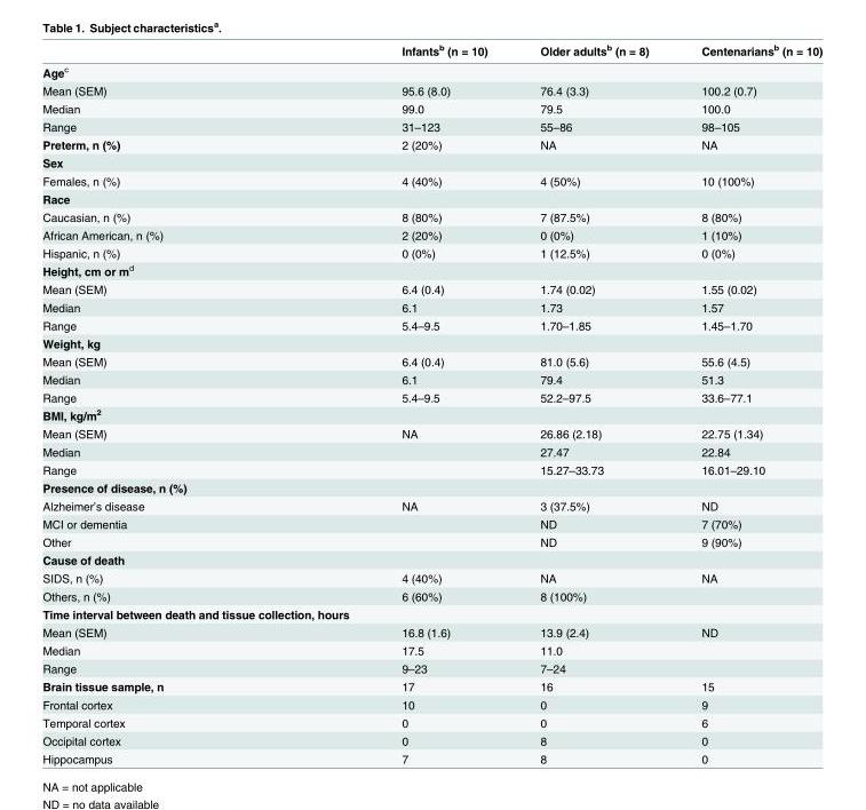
<table><thead><tr><td></td><td>Infants<sup>b</sup> (n = 10)</td><td>Older adults<sup>b</sup> (n = 8)</td><td>Centenarians<sup>b</sup> (n = 10)</td></tr></thead><tbody><tr><td colspan="4">Age<sup>c</sup></td></tr><tr><td>Mean (SEM)</td><td>95.6 (8.0)</td><td>76.4 (3.3)</td><td>100.2 (0.7)</td></tr><tr><td>Median</td><td>99.0</td><td>79.5</td><td>100.0</td></tr><tr><td>Range</td><td>31–123</td><td>55–86</td><td>98–105</td></tr><tr><td>Preterm, n (%)</td><td>2 (20%)</td><td>NA</td><td>NA</td></tr><tr><td colspan="4">Sex</td></tr><tr><td>Females, n (%)</td><td>4 (40%)</td><td>4 (50%)</td><td>10 (100%)</td></tr><tr><td colspan="4">Race</td></tr><tr><td>Caucasian, n (%)</td><td>8 (80%)</td><td>7 (87.5%)</td><td>8 (80%)</td></tr><tr><td>African American, n (%)</td><td>2 (20%)</td><td>0 (0%)</td><td>1 (10%)</td></tr><tr><td>Hispanic, n (%)</td><td>0 (0%)</td><td>1 (12.5%)</td><td>0 (0%)</td></tr><tr><td colspan="4">Height, cm or m<sup>d</sup></td></tr><tr><td>Mean (SEM)</td><td>6.4 (0.4)</td><td>1.74 (0.02)</td><td>1.55 (0.02)</td></tr><tr><td>Median</td><td>6.1</td><td>1.73</td><td>1.57</td></tr><tr><td>Range</td><td>5.4–9.5</td><td>1.70–1.85</td><td>1.45–1.70</td></tr><tr><td colspan="4">Weight, kg</td></tr><tr><td>Mean (SEM)</td><td>6.4 (0.4)</td><td>81.0 (5.6)</td><td>55.6 (4.5)</td></tr><tr><td>Median</td><td>6.1</td><td>79.4</td><td>51.3</td></tr><tr><td>Range</td><td>5.4–9.5</td><td>52.2–97.5</td><td>33.6–77.1</td></tr><tr><td colspan="4">BMI, kg/m<sup>2</sup></td></tr><tr><td>Mean (SEM)</td><td>NA</td><td>26.86 (2.18)</td><td>22.75 (1.34)</td></tr><tr><td>Median</td><td></td><td>27.47</td><td>22.84</td></tr><tr><td>Range</td><td></td><td>15.27–33.73</td><td>16.01–29.10</td></tr><tr><td colspan="4">Presence of disease, n (%)</td></tr><tr><td>Alzheimer’s disease</td><td>NA</td><td>3 (37.5%)</td><td>ND</td></tr><tr><td>MCI or dementia</td><td></td><td>ND</td><td>7 (70%)</td></tr><tr><td>Other</td><td></td><td>ND</td><td>9 (90%)</td></tr><tr><td colspan="4">Cause of death</td></tr><tr><td>SIDS, n (%)</td><td>4 (40%)</td><td>NA</td><td>NA</td></tr><tr><td>Others, n (%)</td><td>6 (60%)</td><td>8 (100%)</td><td></td></tr><tr><td colspan="4">Time interval between death and tissue collection, hours</td></tr><tr><td>Mean (SEM)</td><td>16.8 (1.6)</td><td>13.9 (2.4)</td><td>ND</td></tr><tr><td>Median</td><td>17.5</td><td>11.0</td><td></td></tr><tr><td>Range</td><td>9–23</td><td>7–24</td><td></td></tr><tr><td>Brain tissue sample, n</td><td>17</td><td>16</td><td>15</td></tr><tr><td>Frontal cortex</td><td>10</td><td>0</td><td>9</td></tr><tr><td>Temporal cortex</td><td>0</td><td>0</td><td>6</td></tr><tr><td>Occipital cortex</td><td>0</td><td>8</td><td>0</td></tr><tr><td>Hippocampus</td><td>7</td><td>8</td><td>0</td></tr></tbody></table>